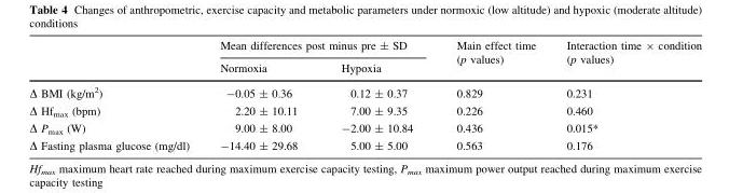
<table><thead><tr><td rowspan="2"></td><td colspan="2">Mean differences post minus pre ± SD</td><td rowspan="2">Main effect time (p values)</td><td rowspan="2">Interaction time × condition (p values)</td></tr><tr><td>Normoxia</td><td>Hypoxia</td></tr></thead><tbody><tr><td>BMI (kg/m2)</td><td>-0.05 ± 0.36</td><td>0.12 ± 0.37</td><td>0.829</td><td>0.231</td></tr><tr><td>Hfmax (bpm)</td><td>2.20 ± 10.11</td><td>7.00 ± 9.35</td><td>0.226</td><td>0.460</td></tr><tr><td>Pmax (W)</td><td>9.00 ± 8.00</td><td>-2.00 ± 10.84</td><td>0.436</td><td>0.015*</td></tr><tr><td>Fasting plasma glucose (mg/dl)</td><td>-14.40 ± 29.68</td><td>5.00 ± 5.00</td><td>0.563</td><td>0.176</td></tr></tbody></table>